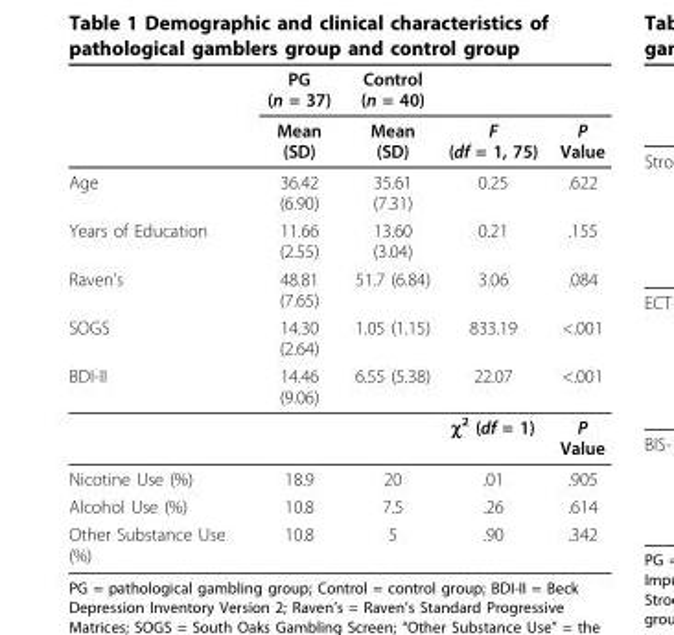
<table><thead><tr><td rowspan="2"></td><td rowspan="2">PG (n = 37) Mean (SD)</td><td rowspan="2">Control (n = 40) Mean (SD)</td><td rowspan="2">F (df = 1, 75)</td><td rowspan="2">P Value</td></tr><tr></tr></thead><tbody><tr><td>Age</td><td>36.42 (6.90)</td><td>35.61 (7.31)</td><td>0.25</td><td>.622</td></tr><tr><td>Years of Education</td><td>11.66 (2.55)</td><td>13.60 (3.04)</td><td>0.21</td><td>.155</td></tr><tr><td>Raven’s</td><td>48.81 (7.65)</td><td>51.7 (6.84)</td><td>3.06</td><td>.084</td></tr><tr><td>SOGS</td><td>14.30 (2.64)</td><td>1.05 (1.15)</td><td>833.19</td><td>&lt;.001</td></tr><tr><td rowspan="2">BDI-II</td><td>14.46 (9.06)</td><td>6.55 (5.38)</td><td>22.07</td><td>&lt;.001</td></tr><tr><td></td><td></td><td>χ<sup>2</sup> (df = 1)</td><td>P Value</td></tr><tr><td>Nicotine Use (%)</td><td>18.9</td><td>20</td><td>.01</td><td>.905</td></tr><tr><td>Alcohol Use (%)</td><td>10.8</td><td>7.5</td><td>.26</td><td>.614</td></tr><tr><td>Other Substance Use (%)</td><td>10.8</td><td>5</td><td>.90</td><td>.342</td></tr></tbody></table>